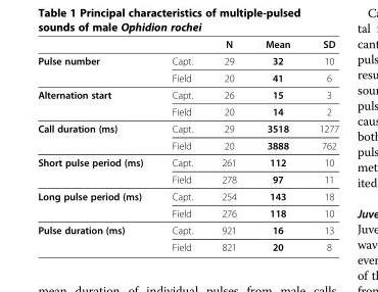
<table><thead><tr><td></td><td></td><td>N</td><td>Mean</td><td>SD</td></tr></thead><tbody><tr><td rowspan="2">Pulse number</td><td>Capt.</td><td>29</td><td>32</td><td>10</td></tr><tr><td>Field</td><td>20</td><td>41</td><td>6</td></tr><tr><td rowspan="2">Alternation start</td><td>Capt.</td><td>26</td><td>15</td><td>3</td></tr><tr><td>Field</td><td>20</td><td>14</td><td>2</td></tr><tr><td rowspan="2">Call duration (ms)</td><td>Capt.</td><td>29</td><td>3518</td><td>1277</td></tr><tr><td>Field</td><td>20</td><td>3888</td><td>762</td></tr><tr><td rowspan="2">Short pulse period (ms)</td><td>Capt.</td><td>261</td><td>112</td><td>10</td></tr><tr><td>Field</td><td>278</td><td>97</td><td>11</td></tr><tr><td rowspan="2">Long pulse period (ms)</td><td>Capt.</td><td>254</td><td>143</td><td>18</td></tr><tr><td>Field</td><td>276</td><td>118</td><td>10</td></tr><tr><td rowspan="2">Pulse duration (ms)</td><td>Capt.</td><td>921</td><td>16</td><td>13</td></tr><tr><td>Field</td><td>821</td><td>20</td><td>8</td></tr></tbody></table>